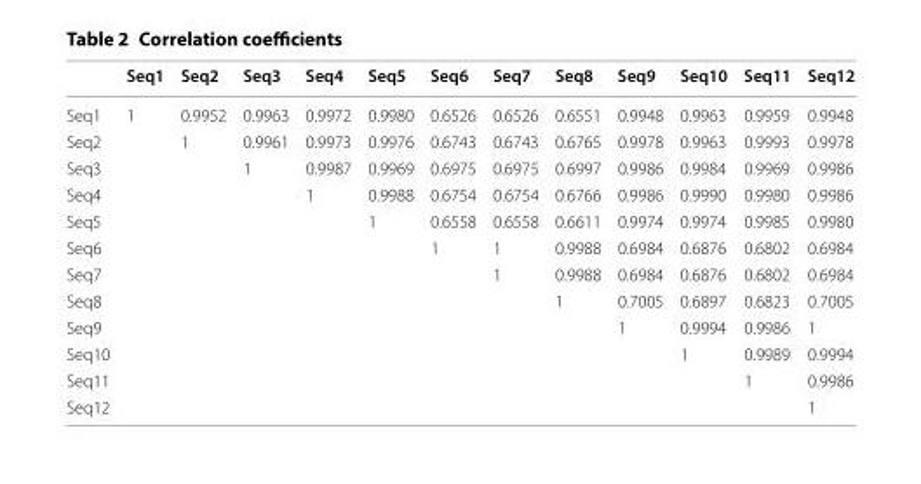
<table><thead><tr><td></td><td>Seq1</td><td>Seq2</td><td>Seq3</td><td>Seq4</td><td>Seq5</td><td>Seq6</td><td>Seq7</td><td>Seq8</td><td>Seq9</td><td>Seq10</td><td>Seq11</td><td>Seq12</td></tr></thead><tbody><tr><td>Seq1</td><td>1</td><td>0.9952</td><td>0.9963</td><td>0.9972</td><td>0.9980</td><td>0.6526</td><td>0.6526</td><td>0.6551</td><td>0.9948</td><td>0.9963</td><td>0.9959</td><td>0.9948</td></tr><tr><td>Seq2</td><td></td><td>1</td><td>0.9961</td><td>0.9973</td><td>0.9976</td><td>0.6743</td><td>0.6743</td><td>0.6765</td><td>0.9978</td><td>0.9963</td><td>0.9993</td><td>0.9978</td></tr><tr><td>Seq3</td><td></td><td></td><td>1</td><td>0.9987</td><td>0.9969</td><td>0.6975</td><td>0.6975</td><td>0.6997</td><td>0.9986</td><td>0.9984</td><td>0.9969</td><td>0.9986</td></tr><tr><td>Seq4</td><td></td><td></td><td></td><td>1</td><td>0.9988</td><td>0.6754</td><td>0.6754</td><td>0.6766</td><td>0.9986</td><td>0.9990</td><td>0.9980</td><td>0.9986</td></tr><tr><td>Seq5</td><td></td><td></td><td></td><td></td><td>1</td><td>0.6558</td><td>0.6558</td><td>0.6611</td><td>0.9974</td><td>0.9974</td><td>0.9985</td><td>0.9980</td></tr><tr><td>Seq6</td><td></td><td></td><td></td><td></td><td></td><td>1</td><td>1</td><td>0.9988</td><td>0.6984</td><td>0.6876</td><td>0.6802</td><td>0.6984</td></tr><tr><td>Seq7</td><td></td><td></td><td></td><td></td><td></td><td></td><td>1</td><td>0.9988</td><td>0.6984</td><td>0.6876</td><td>0.6802</td><td>0.6984</td></tr><tr><td>Seq8</td><td></td><td></td><td></td><td></td><td></td><td></td><td></td><td>1</td><td>0.7005</td><td>0.6897</td><td>0.6823</td><td>0.7005</td></tr><tr><td>Seq9</td><td></td><td></td><td></td><td></td><td></td><td></td><td></td><td></td><td>1</td><td>0.9994</td><td>0.9986</td><td>1</td></tr><tr><td>Seq10</td><td></td><td></td><td></td><td></td><td></td><td></td><td></td><td></td><td></td><td>1</td><td>0.9989</td><td>0.9994</td></tr><tr><td>Seq11</td><td></td><td></td><td></td><td></td><td></td><td></td><td></td><td></td><td></td><td></td><td>1</td><td>0.9986</td></tr><tr><td>Seq12</td><td></td><td></td><td></td><td></td><td></td><td></td><td></td><td></td><td></td><td></td><td></td><td>1</td></tr></tbody></table>